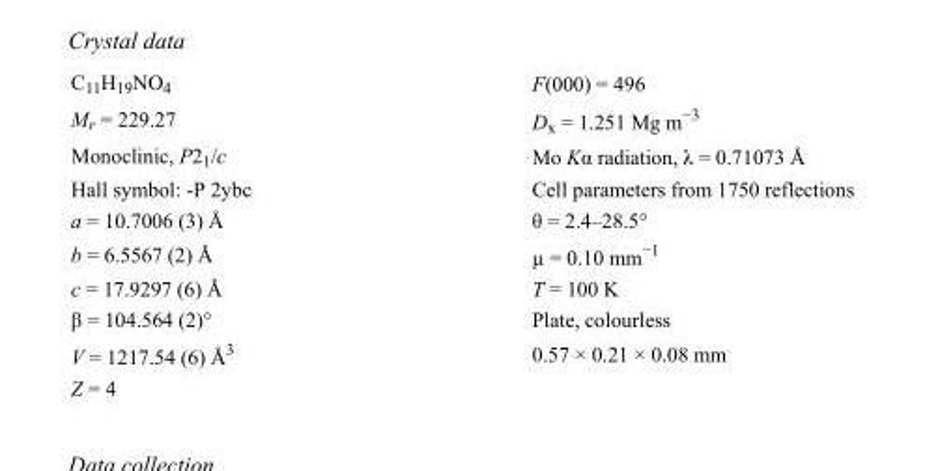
<table><tbody><tr><td>C<sub>11</sub>H<sub>19</sub>NO<sub>4</sub></td><td>F(000) = 496</td></tr><tr><td>M<sub>r</sub> = 229.27</td><td>D<sub>x</sub> = 1.251 Mg m<sup>−3</sup></td></tr><tr><td>Monoclinic, P2<sub>1</sub>/c</td><td>Mo Kα radiation, λ = 0.71073 Å</td></tr><tr><td>Hall symbol: -P 2ybc</td><td>Cell parameters from 1750 reflections</td></tr><tr><td>a = 10.7006 (3) Å</td><td>θ = 2.4–28.5°</td></tr><tr><td>b = 6.5567 (2) Å</td><td>µ = 0.10 mm<sup>−1</sup></td></tr><tr><td>c = 17.9297 (6) Å</td><td>T = 100 K</td></tr><tr><td>β = 104.564 (2)°</td><td>Plate, colourless</td></tr><tr><td>V = 1217.54 (6) Å<sup>3</sup></td><td>0.57 × 0.21 × 0.08 mm</td></tr><tr><td>Z = 4</td><td></td></tr></tbody></table>